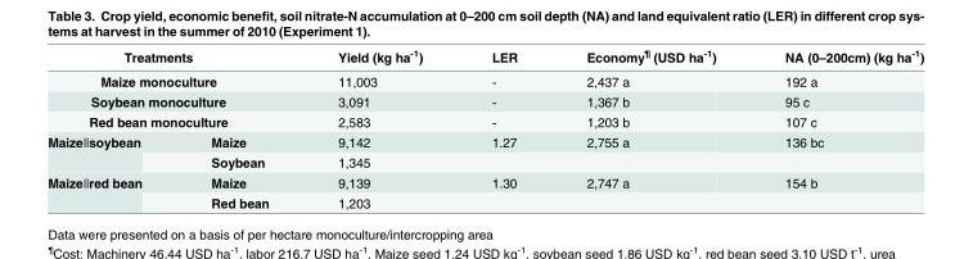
<table><thead><tr><td colspan="2">Treatments</td><td>Yield (kg ha<sup>-1</sup>)</td><td>LER</td><td>Economy<sup>¶</sup> (USD ha<sup>-1</sup>)</td><td>NA (0–200cm) (kg ha<sup>-1</sup>)</td></tr></thead><tbody><tr><td colspan="2">Maize monoculture</td><td>11,003</td><td>-</td><td>2,437 a</td><td>192 a</td></tr><tr><td colspan="2">Soybean monoculture</td><td>3,091</td><td>-</td><td>1,367 b</td><td>95 c</td></tr><tr><td colspan="2">Red bean monoculture</td><td>2,583</td><td>-</td><td>1,203 b</td><td>107 c</td></tr><tr><td rowspan="2">Maizeǁsoybean</td><td>Maize</td><td>9,142</td><td>1.27</td><td>2,755 a</td><td>136 bc</td></tr><tr><td>Soybean</td><td>1,345</td><td></td><td></td><td></td></tr><tr><td rowspan="2">Maizeǁred bean</td><td>Maize</td><td>9,139</td><td>1.30</td><td>2,747 a</td><td>154 b</td></tr><tr><td>Red bean</td><td>1,203</td><td></td><td></td><td></td></tr></tbody></table>